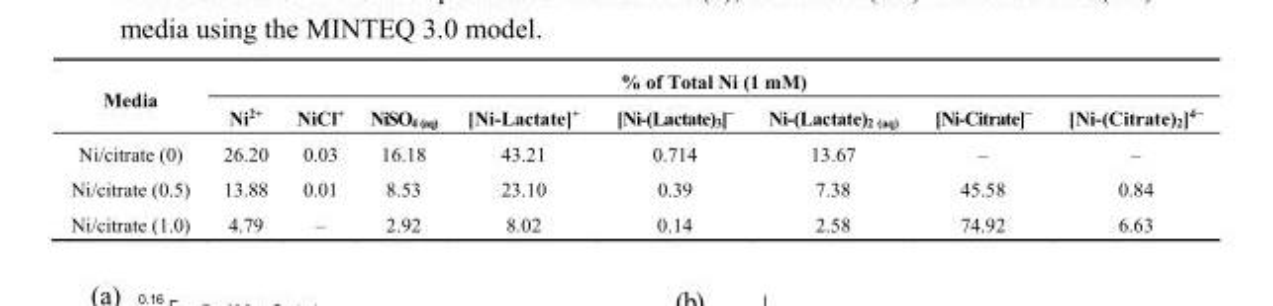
<table><thead><tr><td rowspan="2">Media</td><td colspan="8">% of Total Ni (1 mM)</td></tr><tr><td>Ni<sup>2+</sup></td><td>NiCl<sup>+</sup></td><td>NiSO<sub>4 (aq)</sub></td><td>[Ni-Lactate]<sup>+</sup></td><td>[Ni-(Lactate)<sub>3</sub>]<sup>−</sup></td><td>Ni-(Lactate)<sub>2 (aq)</sub></td><td>[Ni-Citrate]<sup>−</sup></td><td>[Ni-(Citrate)<sub>2</sub>]<sup>4−</sup></td></tr></thead><tbody><tr><td>Ni/citrate (0)</td><td>26.20</td><td>0.03</td><td>16.18</td><td>43.21</td><td>0.714</td><td>13.67</td><td>–</td><td>–</td></tr><tr><td>Ni/citrate (0.5)</td><td>13.88</td><td>0.01</td><td>8.53</td><td>23.10</td><td>0.39</td><td>7.38</td><td>45.58</td><td>0.84</td></tr><tr><td>Ni/citrate (1.0)</td><td>4.79</td><td>–</td><td>2.92</td><td>8.02</td><td>0.14</td><td>2.58</td><td>74.92</td><td>6.63</td></tr></tbody></table>